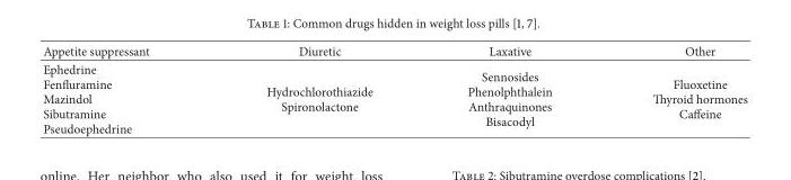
<table><thead><tr><td>Appetite suppressant</td><td>Diuretic</td><td>Laxative</td><td>Other</td></tr></thead><tbody><tr><td>Ephedrine Fenfluramine Mazindol Sibutramine Pseudoephedrine</td><td>Hydrochlorothiazide Spironolactone</td><td>Sennosides Phenolphthalein Anthraquinones Bisacodyl</td><td>Fluoxetine Thyroid hormones Caffeine</td></tr></tbody></table>